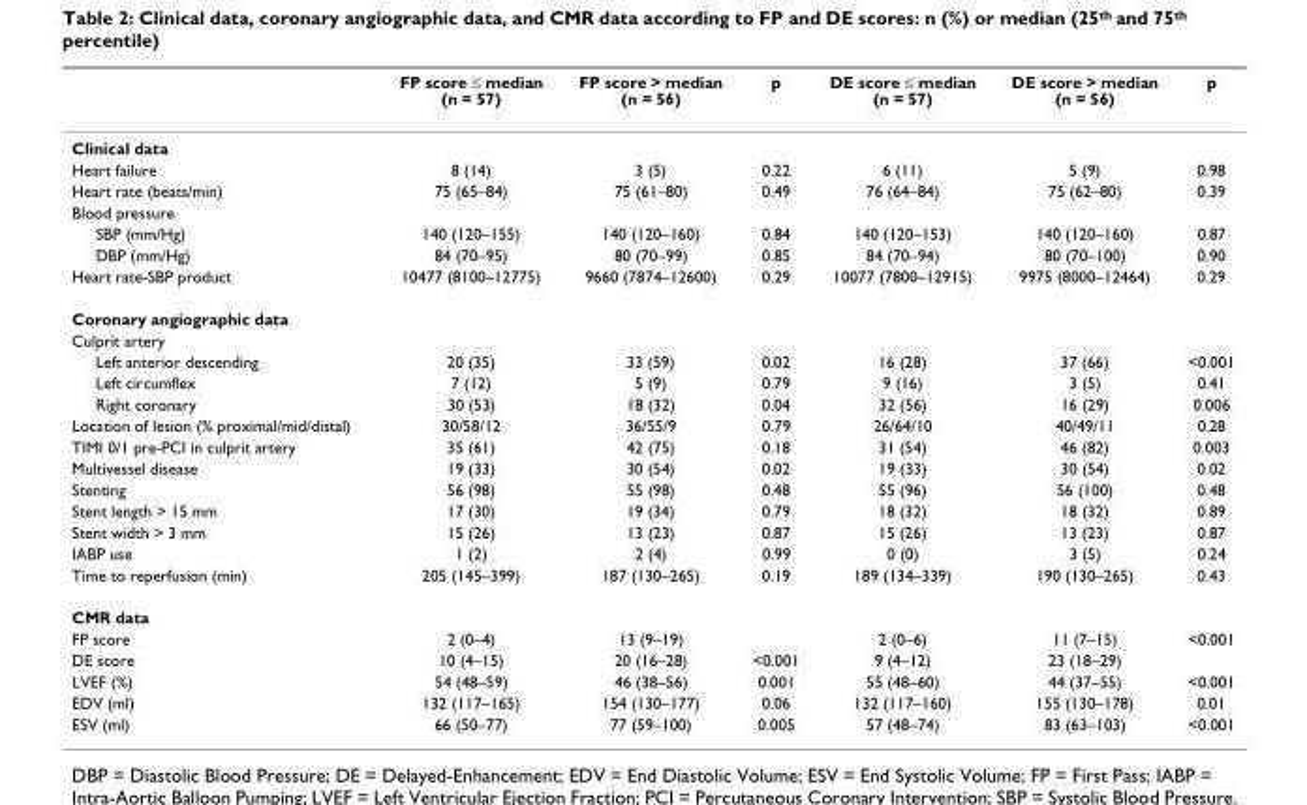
<table><thead><tr><td></td><td>FP score ≤ median (n = 57)</td><td>FP score &gt; median (n = 56)</td><td>p</td><td>DE score ≤ median (n = 57)</td><td>DE score &gt; median (n = 56)</td><td>p</td></tr></thead><tbody><tr><td colspan="7">Clinical data</td></tr><tr><td>Heart failure</td><td>8 (14)</td><td>3 (5)</td><td>0.22</td><td>6 (11)</td><td>5 (9)</td><td>0.98</td></tr><tr><td>Heart rate (beats/min)</td><td>75 (65–84)</td><td>75 (61–80)</td><td>0.49</td><td>76 (64–84)</td><td>75 (62–80)</td><td>0.39</td></tr><tr><td colspan="7">Blood pressure</td></tr><tr><td>SBP (mm/Hg)</td><td>140 (120–155)</td><td>140 (120–160)</td><td>0.84</td><td>140 (120–153)</td><td>140 (120–160)</td><td>0.87</td></tr><tr><td>DBP (mm/Hg)</td><td>84 (70–95)</td><td>80 (70–99)</td><td>0.85</td><td>84 (70–94)</td><td>80 (70–100)</td><td>0.90</td></tr><tr><td>Heart rate-SBP product</td><td>10477 (8100–12775)</td><td>9660 (7874–12600)</td><td>0.29</td><td>10077 (7800–12915)</td><td>9975 (8000–12464)</td><td>0.29</td></tr><tr><td colspan="7">Coronary angiographic data</td></tr><tr><td colspan="7">Culprit artery</td></tr><tr><td>Left anterior descending</td><td>20 (35)</td><td>33 (59)</td><td>0.02</td><td>16 (28)</td><td>37 (66)</td><td>&lt;0.001</td></tr><tr><td>Left circumflex</td><td>7 (12)</td><td>5 (9)</td><td>0.79</td><td>9 (16)</td><td>3 (5)</td><td>0.41</td></tr><tr><td>Right coronary</td><td>30 (53)</td><td>18 (32)</td><td>0.04</td><td>32 (56)</td><td>16 (29)</td><td>0.006</td></tr><tr><td>Location of lesion (% proximal/mid/distal)</td><td>30/58/12</td><td>36/55/9</td><td>0.79</td><td>26/64/10</td><td>40/49/11</td><td>0.28</td></tr><tr><td>TIMI 0/1 pre-PCI in culprit artery</td><td>35 (61)</td><td>42 (75)</td><td>0.18</td><td>31 (54)</td><td>46 (82)</td><td>0.003</td></tr><tr><td>Multivessel disease</td><td>19 (33)</td><td>30 (54)</td><td>0.02</td><td>19 (33)</td><td>30 (54)</td><td>0.02</td></tr><tr><td>Stenting</td><td>56 (98)</td><td>55 (98)</td><td>0.48</td><td>55 (96)</td><td>56 (100)</td><td>0.48</td></tr><tr><td>Stent length &gt; 15 mm</td><td>17 (30)</td><td>19 (34)</td><td>0.79</td><td>18 (32)</td><td>18 (32)</td><td>0.89</td></tr><tr><td>Stent width &gt; 3 mm</td><td>15 (26)</td><td>13 (23)</td><td>0.87</td><td>15 (26)</td><td>13 (23)</td><td>0.87</td></tr><tr><td>IABP use</td><td>1 (2)</td><td>2 (4)</td><td>0.99</td><td>0 (0)</td><td>3 (5)</td><td>0.24</td></tr><tr><td>Time to reperfusion (min)</td><td>205 (145–399)</td><td>187 (130–265)</td><td>0.19</td><td>189 (134–339)</td><td>190 (130–265)</td><td>0.43</td></tr><tr><td colspan="7">CMR data</td></tr><tr><td>FP score</td><td>2 (0–4)</td><td>13 (9–19)</td><td></td><td>2 (0–6)</td><td>11 (7–15)</td><td>&lt;0.001</td></tr><tr><td>DE score</td><td>10 (4–15)</td><td>20 (16–28)</td><td>&lt;0.001</td><td>9 (4–12)</td><td>23 (18–29)</td><td></td></tr><tr><td>LVEF (%)</td><td>54 (48–59)</td><td>46 (38–56)</td><td>0.001</td><td>55 (48–60)</td><td>44 (37–55)</td><td>&lt;0.001</td></tr><tr><td>EDV (ml)</td><td>132 (117–165)</td><td>154 (130–177)</td><td>0.06</td><td>132 (117–160)</td><td>155 (130–178)</td><td>0.01</td></tr><tr><td>ESV (ml)</td><td>66 (50–77)</td><td>77 (59–100)</td><td>0.005</td><td>57 (48–74)</td><td>83 (63–103)</td><td>&lt;0.001</td></tr></tbody></table>